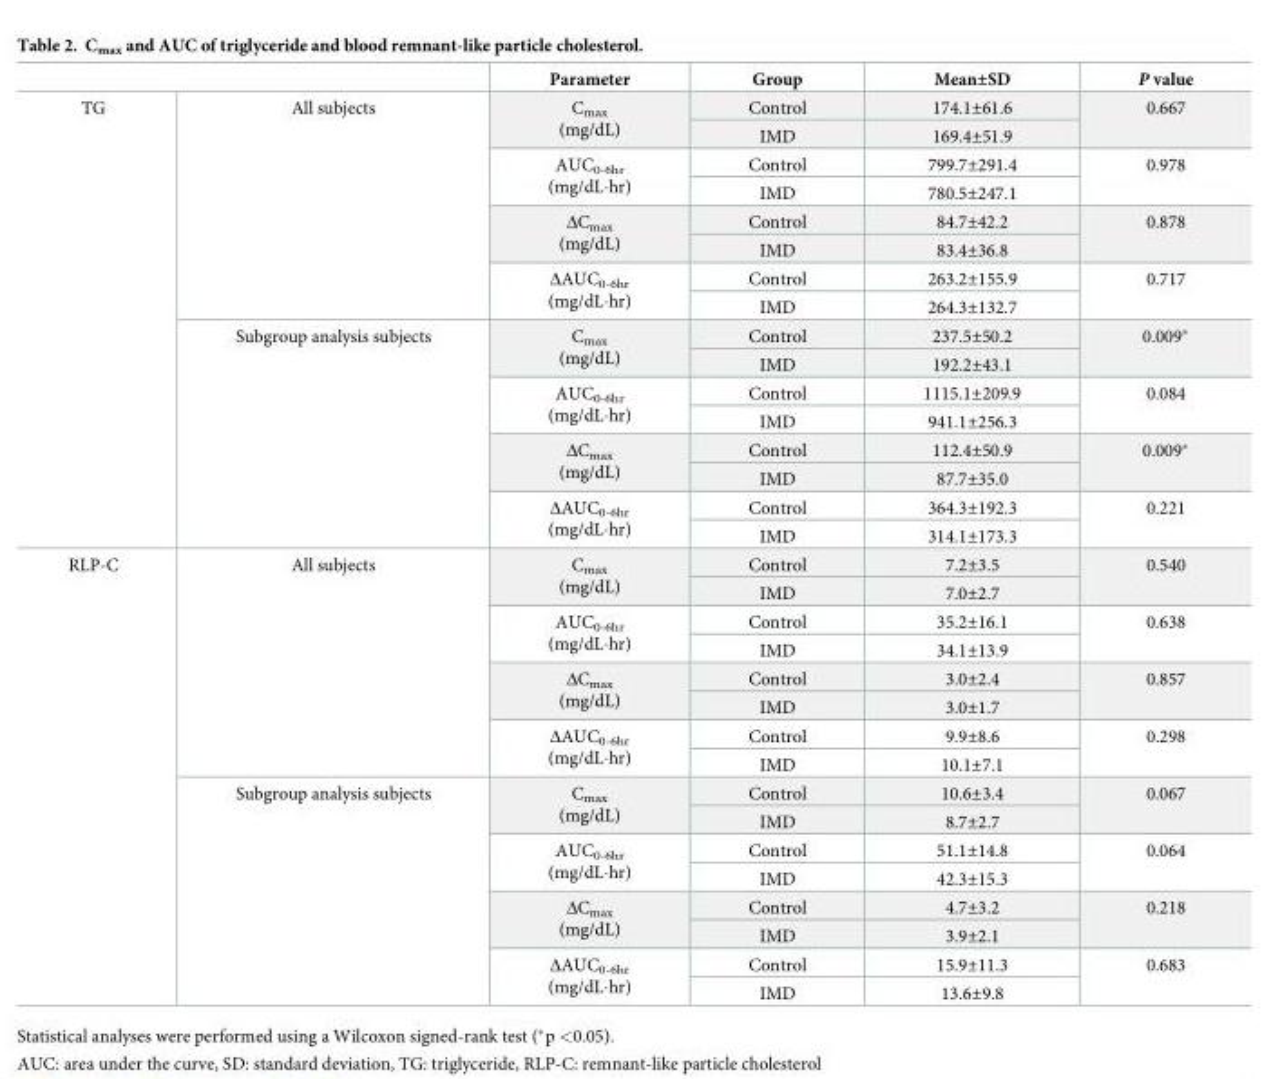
<table><thead><tr><td></td><td></td><td>Parameter</td><td>Group</td><td>Mean±SD</td><td>P value</td></tr></thead><tbody><tr><td rowspan="16">TG</td><td rowspan="8">All subjects</td><td rowspan="2">C<sub>max</sub> (mg/dL)</td><td>Control</td><td>174.1±61.6</td><td rowspan="2">0.667</td></tr><tr><td>IMD</td><td>169.4±51.9</td></tr><tr><td rowspan="2">AUC<sub>0-6hr</sub> (mg/dL∙hr)</td><td>Control</td><td>799.7±291.4</td><td rowspan="2">0.978</td></tr><tr><td>IMD</td><td>780.5±247.1</td></tr><tr><td rowspan="2">ΔC<sub>max</sub> (mg/dL)</td><td>Control</td><td>84.7±42.2</td><td rowspan="2">0.878</td></tr><tr><td>IMD</td><td>83.4±36.8</td></tr><tr><td rowspan="2">ΔAUC<sub>0-6hr</sub> (mg/dL∙hr)</td><td>Control</td><td>263.2±155.9</td><td rowspan="2">0.717</td></tr><tr><td>IMD</td><td>264.3±132.7</td></tr><tr><td rowspan="8">Subgroup analysis subjects</td><td rowspan="2">C<sub>max</sub> (mg/dL)</td><td>Control</td><td>237.5±50.2</td><td rowspan="2">0.009*</td></tr><tr><td>IMD</td><td>192.2±43.1</td></tr><tr><td rowspan="2">AUC<sub>0-6hr</sub> (mg/dL∙hr)</td><td>Control</td><td>1115.1±209.9</td><td rowspan="2">0.084</td></tr><tr><td>IMD</td><td>941.1±256.3</td></tr><tr><td rowspan="2">ΔC<sub>max</sub> (mg/dL)</td><td>Control</td><td>112.4±50.9</td><td rowspan="2">0.009*</td></tr><tr><td>IMD</td><td>87.7±35.0</td></tr><tr><td rowspan="2">ΔAUC<sub>0-6hr</sub> (mg/dL∙hr)</td><td>Control</td><td>364.3±192.3</td><td rowspan="2">0.221</td></tr><tr><td>IMD</td><td>314.1±173.3</td></tr><tr><td rowspan="16">RLP-C</td><td rowspan="8">All subjects</td><td rowspan="2">C<sub>max</sub> (mg/dL)</td><td>Control</td><td>7.2±3.5</td><td rowspan="2">0.540</td></tr><tr><td>IMD</td><td>7.0±2.7</td></tr><tr><td rowspan="2">AUC<sub>0-6hr</sub> (mg/dL∙hr)</td><td>Control</td><td>35.2±16.1</td><td rowspan="2">0.638</td></tr><tr><td>IMD</td><td>34.1±13.9</td></tr><tr><td rowspan="2">ΔC<sub>max</sub> (mg/dL)</td><td>Control</td><td>3.0±2.4</td><td rowspan="2">0.857</td></tr><tr><td>IMD</td><td>3.0±1.7</td></tr><tr><td rowspan="2">ΔAUC<sub>0-6hr</sub> (mg/dL∙hr)</td><td>Control</td><td>9.9±8.6</td><td rowspan="2">0.298</td></tr><tr><td>IMD</td><td>10.1±7.1</td></tr><tr><td rowspan="8">Subgroup analysis subjects</td><td rowspan="2">C<sub>max</sub> (mg/dL)</td><td>Control</td><td>10.6±3.4</td><td rowspan="2">0.067</td></tr><tr><td>IMD</td><td>8.7±2.7</td></tr><tr><td rowspan="2">AUC<sub>0-6hr</sub> (mg/dL∙hr)</td><td>Control</td><td>51.1±14.8</td><td rowspan="2">0.064</td></tr><tr><td>IMD</td><td>42.3±15.3</td></tr><tr><td rowspan="2">ΔC<sub>max</sub> (mg/dL)</td><td>Control</td><td>4.7±3.2</td><td rowspan="2">0.218</td></tr><tr><td>IMD</td><td>3.9±2.1</td></tr><tr><td rowspan="2">ΔAUC<sub>0-6hr</sub> (mg/dL∙hr)</td><td>Control</td><td>15.9±11.3</td><td rowspan="2">0.683</td></tr><tr><td>IMD</td><td>13.6±9.8</td></tr></tbody></table>